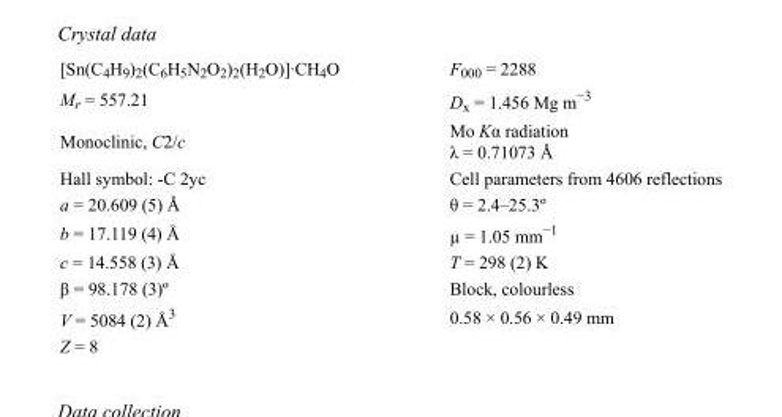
<table><tbody><tr><td>[Sn(C<sub>4</sub>H<sub>9</sub>)<sub>2</sub>(C<sub>6</sub>H<sub>5</sub>N<sub>2</sub>O<sub>2</sub>)<sub>2</sub>(H<sub>2</sub>O)]·CH<sub>4</sub>O</td><td>F<sub>000</sub> = 2288</td></tr><tr><td>M<sub>r</sub> = 557.21</td><td>D<sub>x</sub> = 1.456 Mg m<sup>−3</sup></td></tr><tr><td>Monoclinic, C2/c</td><td>Mo Kα radiation λ = 0.71073 Å</td></tr><tr><td>Hall symbol: -C 2yc</td><td>Cell parameters from 4606 reflections</td></tr><tr><td>a = 20.609 (5) Å</td><td>θ = 2.4–25.3º</td></tr><tr><td>b = 17.119 (4) Å</td><td>µ = 1.05 mm<sup>−1</sup></td></tr><tr><td>c = 14.558 (3) Å</td><td>T = 298 (2) K</td></tr><tr><td>β = 98.178 (3)º</td><td>Block, colourless</td></tr><tr><td>V = 5084 (2) Å<sup>3</sup></td><td>0.58 × 0.56 × 0.49 mm</td></tr><tr><td>Z = 8</td><td></td></tr></tbody></table>